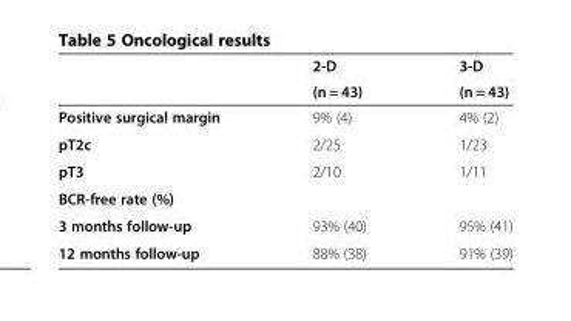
<table><thead><tr><td rowspan="2"></td><td rowspan="2">2-D (n = 43)</td><td rowspan="2">3-D (n = 43)</td></tr><tr></tr></thead><tbody><tr><td>Positive surgical margin</td><td>9% (4)</td><td>4% (2)</td></tr><tr><td>pT2c</td><td>2/25</td><td>1/23</td></tr><tr><td>pT3</td><td>2/10</td><td>1/11</td></tr><tr><td colspan="3">BCR-free rate (%)</td></tr><tr><td>3 months follow-up</td><td>93% (40)</td><td>95% (41)</td></tr><tr><td>12 months follow-up</td><td>88% (38)</td><td>91% (39)</td></tr></tbody></table>